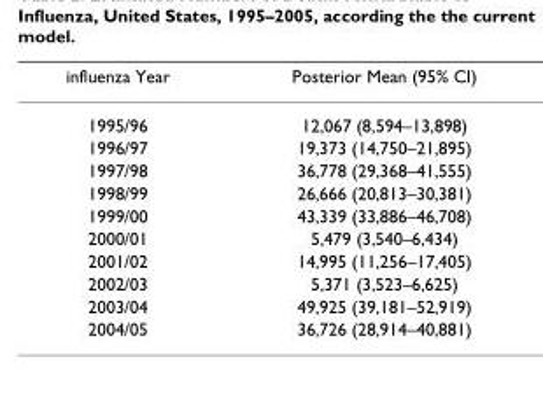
<table><thead><tr><td>influenza Year</td><td>Posterior Mean (95% CI)</td></tr></thead><tbody><tr><td>1995/96</td><td>12,067 (8,594–13,898)</td></tr><tr><td>1996/97</td><td>19,373 (14,750–21,895)</td></tr><tr><td>1997/98</td><td>36,778 (29,368–41,555)</td></tr><tr><td>1998/99</td><td>26,666 (20,813–30,381)</td></tr><tr><td>1999/00</td><td>43,339 (33,886–46,708)</td></tr><tr><td>2000/01</td><td>5,479 (3,540–6,434)</td></tr><tr><td>2001/02</td><td>14,995 (11,256–17,405)</td></tr><tr><td>2002/03</td><td>5,371 (3,523–6,625)</td></tr><tr><td>2003/04</td><td>49,925 (39,181–52,919)</td></tr><tr><td>2004/05</td><td>36,726 (28,914–40,881)</td></tr></tbody></table>